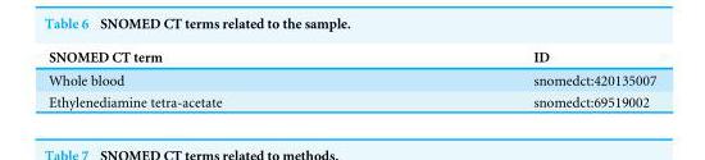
<table><thead><tr><td>SNOMED CT term</td><td>ID</td></tr></thead><tbody><tr><td>Whole blood</td><td>snomedct:420135007</td></tr><tr><td>Ethylenediamine tetra-acetate</td><td>snomedct:69519002</td></tr></tbody></table>